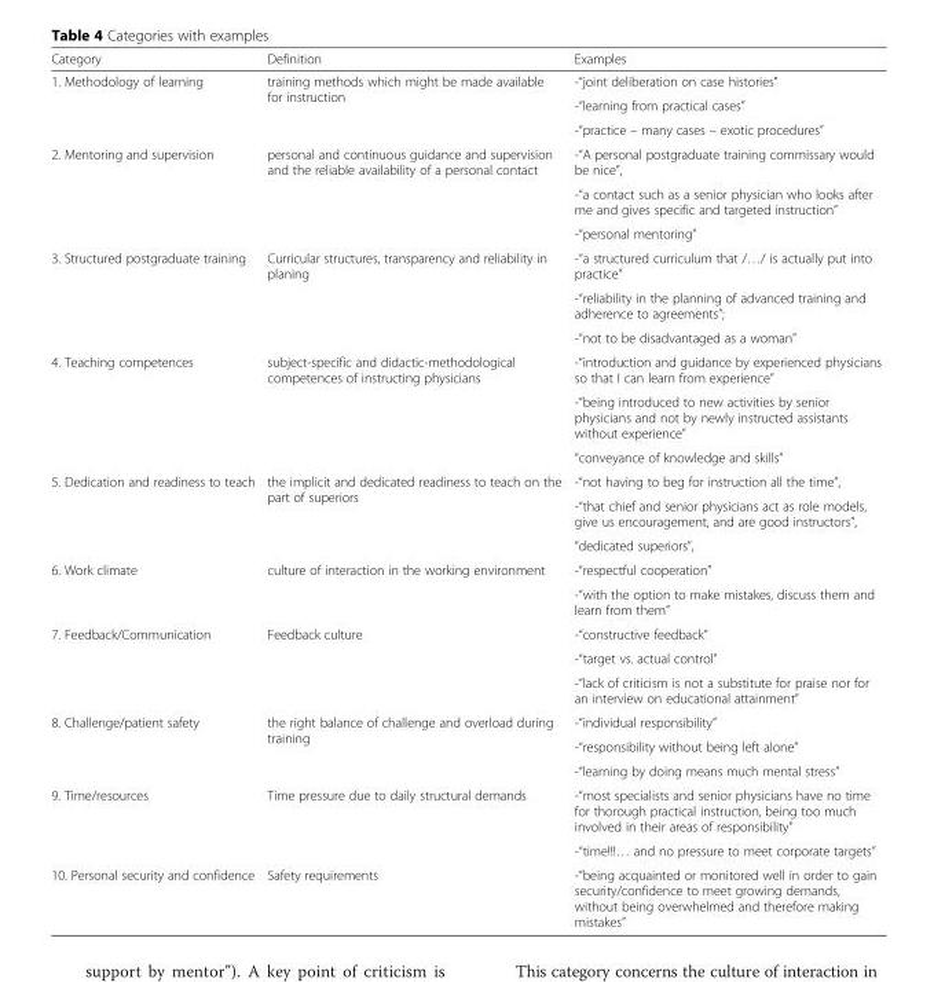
<table><thead><tr><td>Category</td><td>Definition</td><td>Examples</td></tr></thead><tbody><tr><td rowspan="3">1. Methodology of learning</td><td rowspan="3">training methods which might be made available for instruction</td><td>-“joint deliberation on case histories”</td></tr><tr><td>-“learning from practical cases”</td></tr><tr><td>-“practice – many cases – exotic procedures”</td></tr><tr><td rowspan="3">2. Mentoring and supervision</td><td rowspan="3">personal and continuous guidance and supervision and the reliable availability of a personal contact</td><td>-“A personal postgraduate training commissary would be nice”,</td></tr><tr><td>-“a contact such as a senior physician who looks after me and gives specific and targeted instruction”</td></tr><tr><td>-“personal mentoring”</td></tr><tr><td rowspan="3">3. Structured postgraduate training</td><td rowspan="3">Curricular structures, transparency and reliability in planing</td><td>-“a structured curriculum that /…/ is actually put into practice”</td></tr><tr><td>-“reliability in the planning of advanced training and adherence to agreements”;</td></tr><tr><td>-“not to be disadvantaged as a woman”</td></tr><tr><td rowspan="3">4. Teaching competences</td><td rowspan="3">subject-specific and didactic-methodological competences of instructing physicians</td><td>-“introduction and guidance by experienced physicians so that I can learn from experience”</td></tr><tr><td>-“being introduced to new activities by senior physicians and not by newly instructed assistants without experience”</td></tr><tr><td>“conveyance of knowledge and skills”</td></tr><tr><td rowspan="3">5. Dedication and readiness to teach</td><td rowspan="3">the implicit and dedicated readiness to teach on the part of superiors</td><td>-“not having to beg for instruction all the time”,</td></tr><tr><td>-“that chief and senior physicians act as role models, give us encouragement, and are good instructors”,</td></tr><tr><td>“dedicated superiors”,</td></tr><tr><td rowspan="2">6. Work climate</td><td rowspan="2">culture of interaction in the working environment</td><td>-“respectful cooperation”</td></tr><tr><td>-“with the option to make mistakes, discuss them and learn from them”</td></tr><tr><td rowspan="3">7. Feedback/Communication</td><td rowspan="3">Feedback culture</td><td>-“constructive feedback”</td></tr><tr><td>-“target vs. actual control”</td></tr><tr><td>-“lack of criticism is not a substitute for praise nor for an interview on educational attainment”</td></tr><tr><td rowspan="3">8. Challenge/patient safety</td><td rowspan="3">the right balance of challenge and overload during training</td><td>-“individual responsibility”</td></tr><tr><td>-“responsibility without being left alone”</td></tr><tr><td>-“learning by doing means much mental stress”</td></tr><tr><td rowspan="2">9. Time/resources</td><td rowspan="2">Time pressure due to daily structural demands</td><td>-“most specialists and senior physicians have no time for thorough practical instruction, being too much involved in their areas of responsibility”</td></tr><tr><td>-“time!!!… and no pressure to meet corporate targets”</td></tr><tr><td>10. Personal security and confidence</td><td>Safety requirements</td><td>-“being acquainted or monitored well in order to gain security/confidence to meet growing demands, without being overwhelmed and therefore making mistakes”</td></tr></tbody></table>